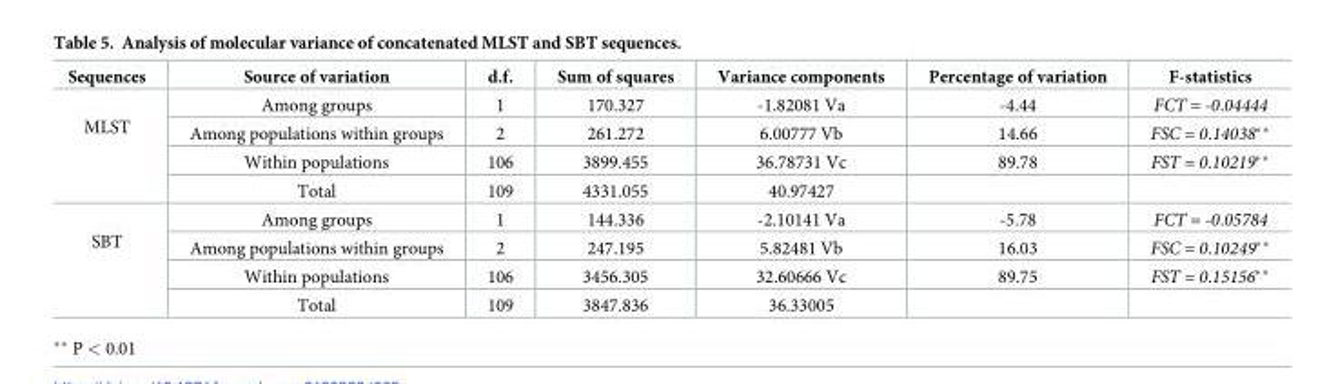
<table><thead><tr><td>Sequences</td><td>Source of variation</td><td>d.f.</td><td>Sum of squares</td><td>Variance components</td><td>Percentage of variation</td><td>F-statistics</td></tr></thead><tbody><tr><td rowspan="4">MLST</td><td>Among groups</td><td>1</td><td>170.327</td><td>-1.82081 Va</td><td>-4.44</td><td>FCT = -0.04444</td></tr><tr><td>Among populations within groups</td><td>2</td><td>261.272</td><td>6.00777 Vb</td><td>14.66</td><td>FSC = 0.14038**</td></tr><tr><td>Within populations</td><td>106</td><td>3899.455</td><td>36.78731 Vc</td><td>89.78</td><td>FST = 0.10219**</td></tr><tr><td>Total</td><td>109</td><td>4331.055</td><td>40.97427</td><td></td><td></td></tr><tr><td rowspan="4">SBT</td><td>Among groups</td><td>1</td><td>144.336</td><td>-2.10141 Va</td><td>-5.78</td><td>FCT = -0.05784</td></tr><tr><td>Among populations within groups</td><td>2</td><td>247.195</td><td>5.82481 Vb</td><td>16.03</td><td>FSC = 0.10249**</td></tr><tr><td>Within populations</td><td>106</td><td>3456.305</td><td>32.60666 Vc</td><td>89.75</td><td>FST = 0.15156**</td></tr><tr><td>Total</td><td>109</td><td>3847.836</td><td>36.33005</td><td></td><td></td></tr></tbody></table>